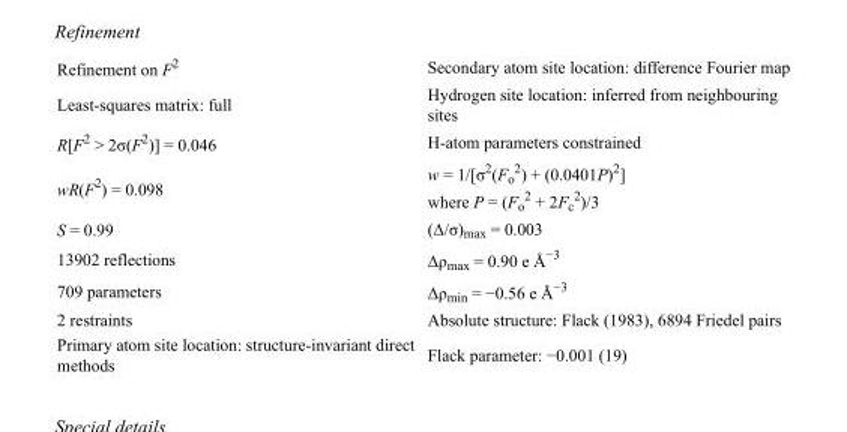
<table><tbody><tr><td>Refinement on F<sup>2</sup></td><td>Secondary atom site location: difference Fourier map</td></tr><tr><td>Least-squares matrix: full</td><td>Hydrogen site location: inferred from neighbouring sites</td></tr><tr><td>R[F<sup>2</sup> &gt; 2σ(F<sup>2</sup>)] = 0.046</td><td>H-atom parameters constrained</td></tr><tr><td>wR(F<sup>2</sup>) = 0.098</td><td>w = 1/[σ<sup>2</sup>(F<sub>o</sub> <sup>2</sup>) + (0.0401P)<sup>2</sup>] where P = (F<sub>o</sub> <sup>2</sup> + 2F<sub>c</sub> <sup>2</sup>)/3</td></tr><tr><td>S = 0.99</td><td>(Δ/σ)<sub>max</sub> = 0.003</td></tr><tr><td>13902 reflections</td><td>Δρ<sub>max</sub> = 0.90 e Å<sup>−3</sup></td></tr><tr><td>709 parameters</td><td>Δρ<sub>min</sub> = −0.56 e Å<sup>−3</sup></td></tr><tr><td>2 restraints</td><td>Absolute structure: Flack (1983), 6894 Friedel pairs</td></tr><tr><td>Primary atom site location: structure-invariant direct methods</td><td>Flack parameter: −0.001 (19)</td></tr></tbody></table>